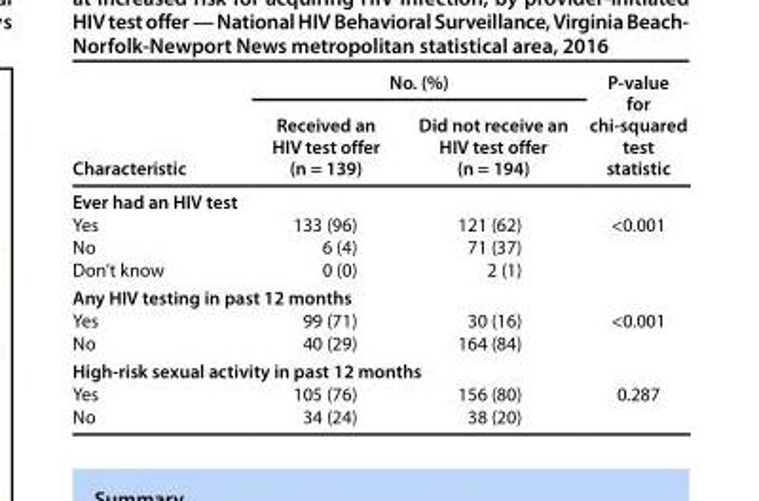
<table><thead><tr><td rowspan="2">Characteristic</td><td colspan="2">No. (%)</td><td rowspan="2">P-value for chi-squared test statistic</td></tr><tr><td>Received an HIV test offer (n = 139)</td><td>Did not receive an HIV test offer (n = 194)</td></tr></thead><tbody><tr><td colspan="4">Ever had an HIV test</td></tr><tr><td>Yes</td><td>133 (96)</td><td>121 (62)</td><td rowspan="3">&lt;0.001</td></tr><tr><td>No</td><td>6 (4)</td><td>71 (37)</td></tr><tr><td>Don’t know</td><td>0 (0)</td><td>2 (1)</td></tr><tr><td colspan="4">Any HIV testing in past 12 months</td></tr><tr><td>Yes</td><td>99 (71)</td><td>30 (16)</td><td rowspan="2">&lt;0.001</td></tr><tr><td>No</td><td>40 (29)</td><td>164 (84)</td></tr><tr><td colspan="4">High-risk sexual activity in past 12 months</td></tr><tr><td>Yes</td><td>105 (76)</td><td>156 (80)</td><td rowspan="2">0.287</td></tr><tr><td>No</td><td>34 (24)</td><td>38 (20)</td></tr></tbody></table>